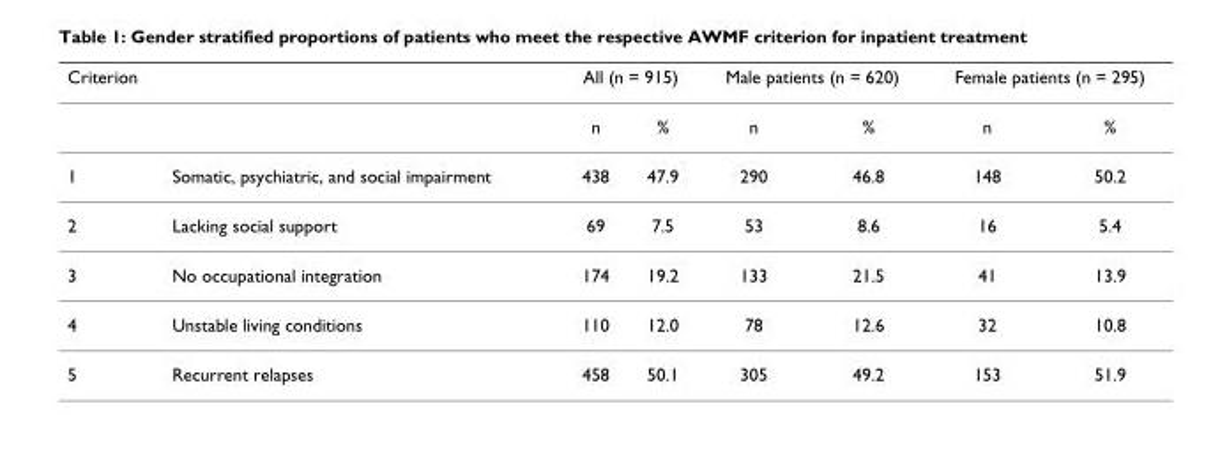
<table><thead><tr><td rowspan="2">Criterion</td><td rowspan="2"></td><td colspan="2">All (n = 915)</td><td colspan="2">Male patients (n = 620)</td><td colspan="2">Female patients (n = 295)</td></tr><tr><td>n</td><td>%</td><td>n</td><td>%</td><td>n</td><td>%</td></tr></thead><tbody><tr><td>1</td><td>Somatic, psychiatric, and social impairment</td><td>438</td><td>47.9</td><td>290</td><td>46.8</td><td>148</td><td>50.2</td></tr><tr><td>2</td><td>Lacking social support</td><td>69</td><td>7.5</td><td>53</td><td>8.6</td><td>16</td><td>5.4</td></tr><tr><td>3</td><td>No occupational integration</td><td>174</td><td>19.2</td><td>133</td><td>21.5</td><td>41</td><td>13.9</td></tr><tr><td>4</td><td>Unstable living conditions</td><td>110</td><td>12.0</td><td>78</td><td>12.6</td><td>32</td><td>10.8</td></tr><tr><td>5</td><td>Recurrent relapses</td><td>458</td><td>50.1</td><td>305</td><td>49.2</td><td>153</td><td>51.9</td></tr></tbody></table>